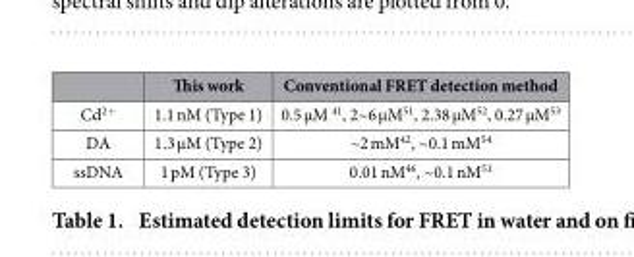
<table><thead><tr><td></td><td>This work</td><td>Conventional FRET detection method</td></tr></thead><tbody><tr><td>Cd<sup>2+</sup></td><td>1.1 nM (Type 1)</td><td>0.5 μM 41, 2~6 μM<sup>51</sup>, 2.38 μM<sup>52</sup>, 0.27 μM<sup>53</sup></td></tr><tr><td>DA</td><td>1.3 μM (Type 2)</td><td>~2 mM<sup>42</sup>, ~0.1 mM<sup>54</sup></td></tr><tr><td>ssDNA</td><td>1 pM (Type 3)</td><td>0.01 nM<sup>46</sup>, ~0.1 nM<sup>51</sup></td></tr></tbody></table>